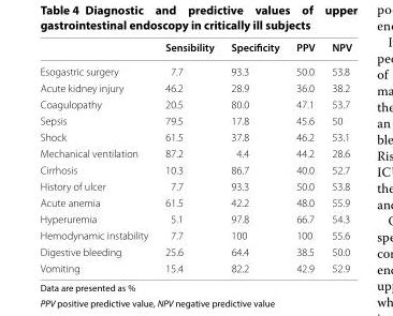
<table><thead><tr><td></td><td>Sensibility</td><td>Specificity</td><td>PPV</td><td>NPV</td></tr></thead><tbody><tr><td>Esogastric surgery</td><td>7.7</td><td>93.3</td><td>50.0</td><td>53.8</td></tr><tr><td>Acute kidney injury</td><td>46.2</td><td>28.9</td><td>36.0</td><td>38.2</td></tr><tr><td>Coagulopathy</td><td>20.5</td><td>80.0</td><td>47.1</td><td>53.7</td></tr><tr><td>Sepsis</td><td>79.5</td><td>17.8</td><td>45.6</td><td>50</td></tr><tr><td>Shock</td><td>61.5</td><td>37.8</td><td>46.2</td><td>53.1</td></tr><tr><td>Mechanical ventilation</td><td>87.2</td><td>4.4</td><td>44.2</td><td>28.6</td></tr><tr><td>Cirrhosis</td><td>10.3</td><td>86.7</td><td>40.0</td><td>52.7</td></tr><tr><td>History of ulcer</td><td>7.7</td><td>93.3</td><td>50.0</td><td>53.8</td></tr><tr><td>Acute anemia</td><td>61.5</td><td>42.2</td><td>48.0</td><td>55.9</td></tr><tr><td>Hyperuremia</td><td>5.1</td><td>97.8</td><td>66.7</td><td>54.3</td></tr><tr><td>Hemodynamic instability</td><td>7.7</td><td>100</td><td>100</td><td>55.6</td></tr><tr><td>Digestive bleeding</td><td>25.6</td><td>64.4</td><td>38.5</td><td>50.0</td></tr><tr><td>Vomiting</td><td>15.4</td><td>82.2</td><td>42.9</td><td>52.9</td></tr></tbody></table>